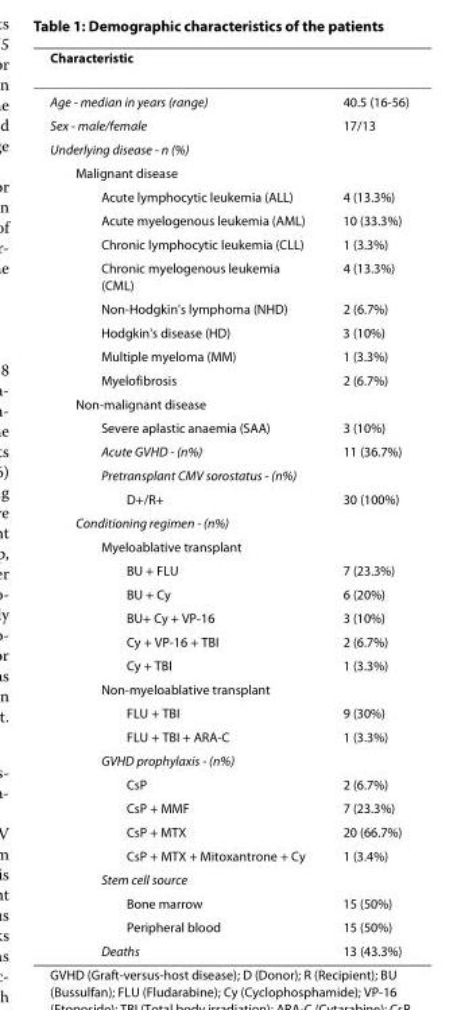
<table><thead><tr><td>Characteristic</td><td></td></tr></thead><tbody><tr><td>Age - median in years (range)</td><td>40.5 (16-56)</td></tr><tr><td>Sex - male/female</td><td>17/13</td></tr><tr><td colspan="2">Underlying disease - n (%)</td></tr><tr><td colspan="2">Malignant disease</td></tr><tr><td>Acute lymphocytic leukemia (ALL)</td><td>4 (13.3%)</td></tr><tr><td>Acute myelogenous leukemia (AML)</td><td>10 (33.3%)</td></tr><tr><td>Chronic lymphocytic leukemia (CLL)</td><td>1 (3.3%)</td></tr><tr><td>Chronic myelogenous leukemia (CML)</td><td>4 (13.3%)</td></tr><tr><td>Non-Hodgkin&#x27;s lymphoma (NHD)</td><td>2 (6.7%)</td></tr><tr><td>Hodgkin&#x27;s disease (HD)</td><td>3 (10%)</td></tr><tr><td>Multiple myeloma (MM)</td><td>1 (3.3%)</td></tr><tr><td>Myelofibrosis</td><td>2 (6.7%)</td></tr><tr><td colspan="2">Non-malignant disease</td></tr><tr><td>Severe aplastic anaemia (SAA)</td><td>3 (10%)</td></tr><tr><td>Acute GVHD - (n%)</td><td>11 (36.7%)</td></tr><tr><td colspan="2">Pretransplant CMV sorostatus - (n%)</td></tr><tr><td>D+/R+</td><td>30 (100%)</td></tr><tr><td colspan="2">Conditioning regimen - (n%)</td></tr><tr><td colspan="2">Myeloablative transplant</td></tr><tr><td>BU + FLU</td><td>7 (23.3%)</td></tr><tr><td>BU + Cy</td><td>6 (20%)</td></tr><tr><td>BU+ Cy + VP-16</td><td>3 (10%)</td></tr><tr><td>Cy + VP-16 + TBI</td><td>2 (6.7%)</td></tr><tr><td>Cy + TBI</td><td>1 (3.3%)</td></tr><tr><td colspan="2">Non-myeloablative transplant</td></tr><tr><td>FLU + TBI</td><td>9 (30%)</td></tr><tr><td>FLU + TBI + ARA-C</td><td>1 (3.3%)</td></tr><tr><td colspan="2">GVHD prophylaxis - (n%)</td></tr><tr><td>CsP</td><td>2 (6.7%)</td></tr><tr><td>CsP + MMF</td><td>7 (23.3%)</td></tr><tr><td>CsP + MTX</td><td>20 (66.7%)</td></tr><tr><td>CsP + MTX + Mitoxantrone + Cy</td><td>1 (3.4%)</td></tr><tr><td colspan="2">Stem cell source</td></tr><tr><td>Bone marrow</td><td>15 (50%)</td></tr><tr><td>Peripheral blood</td><td>15 (50%)</td></tr><tr><td>Deaths</td><td>13 (43.3%)</td></tr></tbody></table>